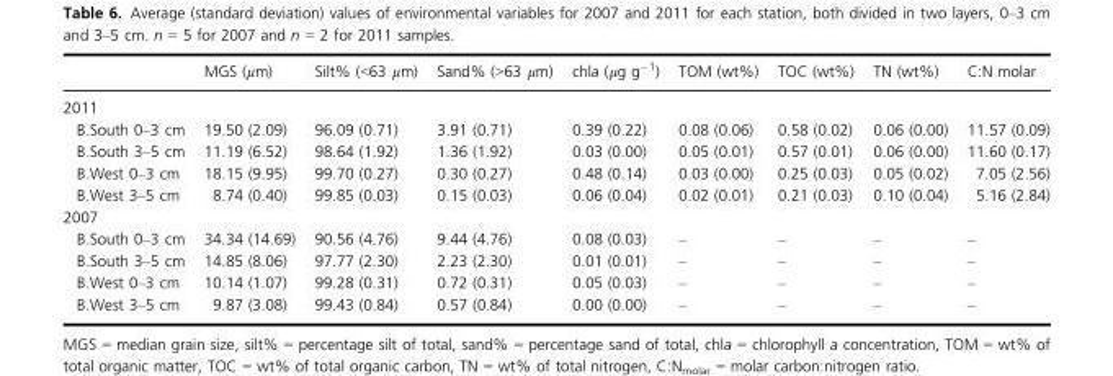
<table><thead><tr><td></td><td>MGS (μm)</td><td>Silt% (&lt;63 μm)</td><td>Sand% (&gt;63 μm)</td><td>chla (μg g<sup>−1</sup>)</td><td>TOM (wt%)</td><td>TOC (wt%)</td><td>TN (wt%)</td><td>C:N molar</td></tr></thead><tbody><tr><td colspan="9">2011</td></tr><tr><td>B.South 0–3 cm</td><td>19.50 (2.09)</td><td>96.09 (0.71)</td><td>3.91 (0.71)</td><td>0.39 (0.22)</td><td>0.08 (0.06)</td><td>0.58 (0.02)</td><td>0.06 (0.00)</td><td>11.57 (0.09)</td></tr><tr><td>B.South 3–5 cm</td><td>11.19 (6.52)</td><td>98.64 (1.92)</td><td>1.36 (1.92)</td><td>0.03 (0.00)</td><td>0.05 (0.01)</td><td>0.57 (0.01)</td><td>0.06 (0.00)</td><td>11.60 (0.17)</td></tr><tr><td>B.West 0–3 cm</td><td>18.15 (9.95)</td><td>99.70 (0.27)</td><td>0.30 (0.27)</td><td>0.48 (0.14)</td><td>0.03 (0.00)</td><td>0.25 (0.03)</td><td>0.05 (0.02)</td><td>7.05 (2.56)</td></tr><tr><td>B.West 3–5 cm</td><td>8.74 (0.40)</td><td>99.85 (0.03)</td><td>0.15 (0.03)</td><td>0.06 (0.04)</td><td>0.02 (0.01)</td><td>0.21 (0.03)</td><td>0.10 (0.04)</td><td>5.16 (2.84)</td></tr><tr><td colspan="9">2007</td></tr><tr><td>B.South 0–3 cm</td><td>34.34 (14.69)</td><td>90.56 (4.76)</td><td>9.44 (4.76)</td><td>0.08 (0.03)</td><td>–</td><td>–</td><td>–</td><td>–</td></tr><tr><td>B.South 3–5 cm</td><td>14.85 (8.06)</td><td>97.77 (2.30)</td><td>2.23 (2.30)</td><td>0.01 (0.01)</td><td>–</td><td>–</td><td>–</td><td>–</td></tr><tr><td>B.West 0–3 cm</td><td>10.14 (1.07)</td><td>99.28 (0.31)</td><td>0.72 (0.31)</td><td>0.05 (0.03)</td><td>–</td><td>–</td><td>–</td><td>–</td></tr><tr><td>B.West 3–5 cm</td><td>9.87 (3.08)</td><td>99.43 (0.84)</td><td>0.57 (0.84)</td><td>0.00 (0.00)</td><td>–</td><td>–</td><td>–</td><td>–</td></tr></tbody></table>